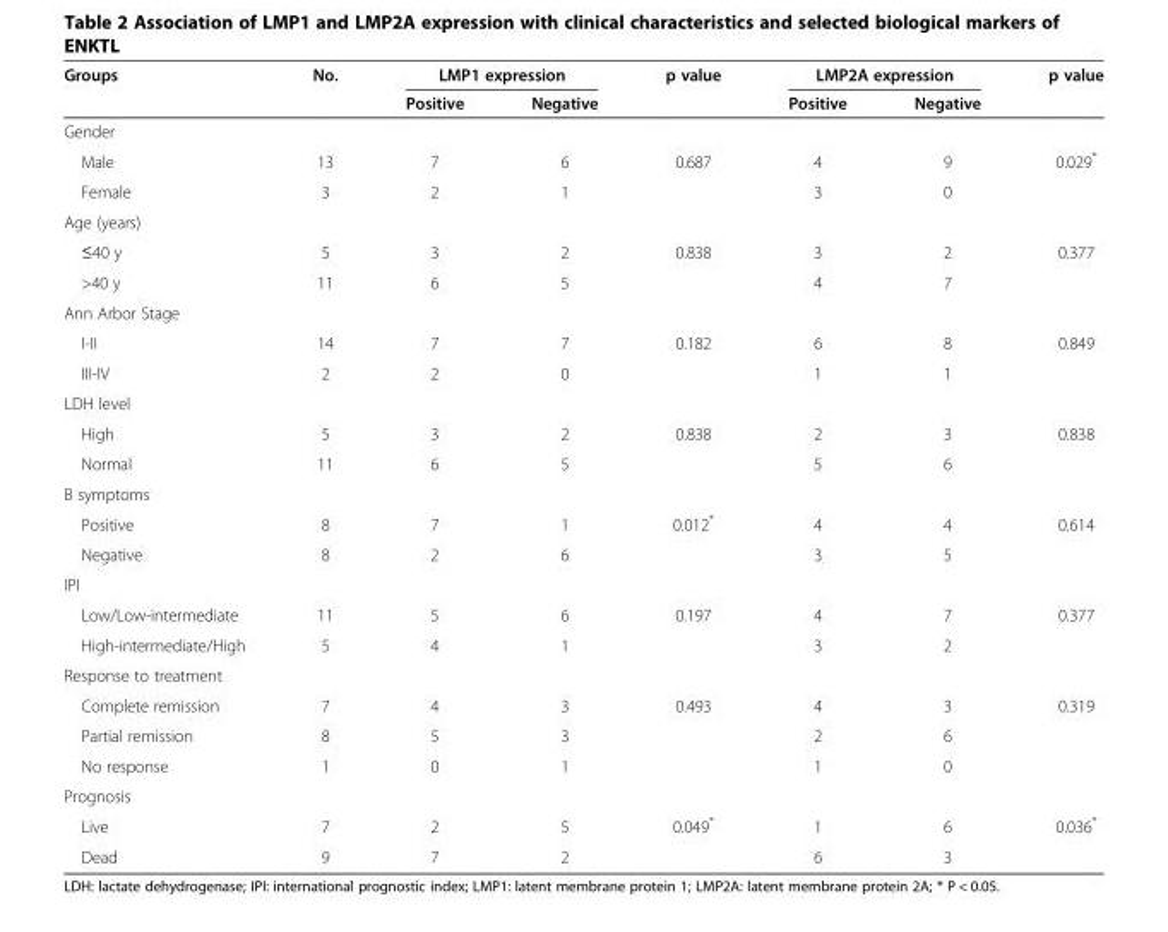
<table><thead><tr><td rowspan="2">Groups</td><td rowspan="2">No.</td><td colspan="2">LMP1 expression</td><td rowspan="2">p value</td><td colspan="2">LMP2A expression</td><td rowspan="2">p value</td></tr><tr><td>Positive</td><td>Negative</td><td>Positive</td><td>Negative</td></tr></thead><tbody><tr><td colspan="8">Gender</td></tr><tr><td>Male</td><td>13</td><td>7</td><td>6</td><td>0.687</td><td>4</td><td>9</td><td>0.029*</td></tr><tr><td>Female</td><td>3</td><td>2</td><td>1</td><td></td><td>3</td><td>0</td><td></td></tr><tr><td colspan="8">Age (years)</td></tr><tr><td>≤40 y</td><td>5</td><td>3</td><td>2</td><td>0.838</td><td>3</td><td>2</td><td>0.377</td></tr><tr><td>&gt;40 y</td><td>11</td><td>6</td><td>5</td><td></td><td>4</td><td>7</td><td></td></tr><tr><td colspan="8">Ann Arbor Stage</td></tr><tr><td>I-II</td><td>14</td><td>7</td><td>7</td><td>0.182</td><td>6</td><td>8</td><td>0.849</td></tr><tr><td>III-IV</td><td>2</td><td>2</td><td>0</td><td></td><td>1</td><td>1</td><td></td></tr><tr><td colspan="8">LDH level</td></tr><tr><td>High</td><td>5</td><td>3</td><td>2</td><td>0.838</td><td>2</td><td>3</td><td>0.838</td></tr><tr><td>Normal</td><td>11</td><td>6</td><td>5</td><td></td><td>5</td><td>6</td><td></td></tr><tr><td colspan="8">B symptoms</td></tr><tr><td>Positive</td><td>8</td><td>7</td><td>1</td><td>0.012*</td><td>4</td><td>4</td><td>0.614</td></tr><tr><td>Negative</td><td>8</td><td>2</td><td>6</td><td></td><td>3</td><td>5</td><td></td></tr><tr><td colspan="8">IPI</td></tr><tr><td>Low/Low-intermediate</td><td>11</td><td>5</td><td>6</td><td>0.197</td><td>4</td><td>7</td><td>0.377</td></tr><tr><td>High-intermediate/High</td><td>5</td><td>4</td><td>1</td><td></td><td>3</td><td>2</td><td></td></tr><tr><td colspan="8">Response to treatment</td></tr><tr><td>Complete remission</td><td>7</td><td>4</td><td>3</td><td>0.493</td><td>4</td><td>3</td><td>0.319</td></tr><tr><td>Partial remission</td><td>8</td><td>5</td><td>3</td><td></td><td>2</td><td>6</td><td></td></tr><tr><td>No response</td><td>1</td><td>0</td><td>1</td><td></td><td>1</td><td>0</td><td></td></tr><tr><td colspan="8">Prognosis</td></tr><tr><td>Live</td><td>7</td><td>2</td><td>5</td><td>0.049*</td><td>1</td><td>6</td><td>0.036*</td></tr><tr><td>Dead</td><td>9</td><td>7</td><td>2</td><td></td><td>6</td><td>3</td><td></td></tr></tbody></table>